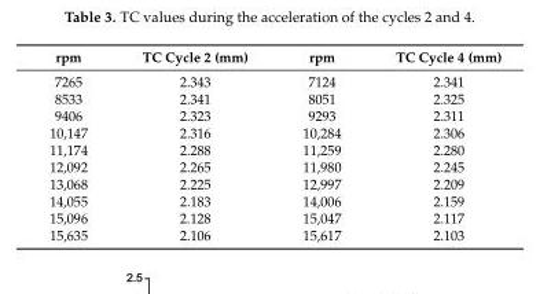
<table><thead><tr><td>rpm</td><td>TC Cycle 2 (mm)</td><td>rpm</td><td>TC Cycle 4 (mm)</td></tr></thead><tbody><tr><td>7265</td><td>2.343</td><td>7124</td><td>2.341</td></tr><tr><td>8533</td><td>2.341</td><td>8051</td><td>2.325</td></tr><tr><td>9406</td><td>2.323</td><td>9293</td><td>2.311</td></tr><tr><td>10,147</td><td>2.316</td><td>10,284</td><td>2.306</td></tr><tr><td>11,174</td><td>2.288</td><td>11,259</td><td>2.280</td></tr><tr><td>12,092</td><td>2.265</td><td>11,980</td><td>2.245</td></tr><tr><td>13,068</td><td>2.225</td><td>12,997</td><td>2.209</td></tr><tr><td>14,055</td><td>2.183</td><td>14,006</td><td>2.159</td></tr><tr><td>15,096</td><td>2.128</td><td>15,047</td><td>2.117</td></tr><tr><td>15,635</td><td>2.106</td><td>15,617</td><td>2.103</td></tr></tbody></table>